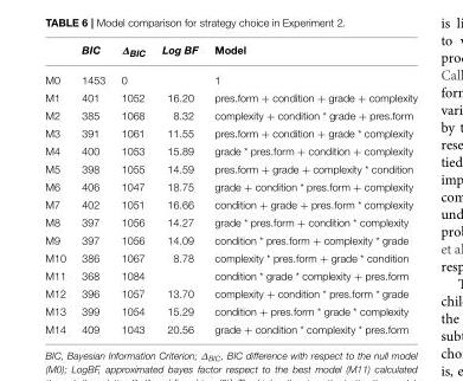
<table><thead><tr><td></td><td>BIC</td><td>∆BIC</td><td>Log BF</td><td>Model</td></tr></thead><tbody><tr><td>M0</td><td>1453</td><td>0</td><td></td><td>1</td></tr><tr><td>M1</td><td>401</td><td>1052</td><td>16.20</td><td>pres.form + condition + grade + complexity</td></tr><tr><td>M2</td><td>385</td><td>1068</td><td>8.32</td><td>complexity + condition * grade + pres.form</td></tr><tr><td>M3</td><td>391</td><td>1061</td><td>11.55</td><td>pres.form + condition + grade * complexity</td></tr><tr><td>M4</td><td>400</td><td>1053</td><td>15.89</td><td>grade * pres.form + condition + complexity</td></tr><tr><td>M5</td><td>398</td><td>1055</td><td>14.59</td><td>pres.form + grade + complexity * condition</td></tr><tr><td>M6</td><td>406</td><td>1047</td><td>18.75</td><td>grade + condition * pres.form + complexity</td></tr><tr><td>M7</td><td>402</td><td>1051</td><td>16.66</td><td>condition + grade + pres.form * complexity</td></tr><tr><td>M8</td><td>397</td><td>1056</td><td>14.27</td><td>grade * pres.form + condition * complexity</td></tr><tr><td>M9</td><td>397</td><td>1056</td><td>14.09</td><td>condition * pres.form + complexity * grade</td></tr><tr><td>M10</td><td>386</td><td>1067</td><td>8.78</td><td>complexity * pres.form + grade * condition</td></tr><tr><td>M11</td><td>368</td><td>1084</td><td></td><td>condition * grade * complexity + pres.form</td></tr><tr><td>M12</td><td>396</td><td>1057</td><td>13.70</td><td>complexity + condition * pres.form * grade</td></tr><tr><td>M13</td><td>399</td><td>1054</td><td>15.29</td><td>condition + pres.form * grade * complexity</td></tr><tr><td>M14</td><td>409</td><td>1043</td><td>20.56</td><td>grade + condition * complexity * pres.form</td></tr></tbody></table>